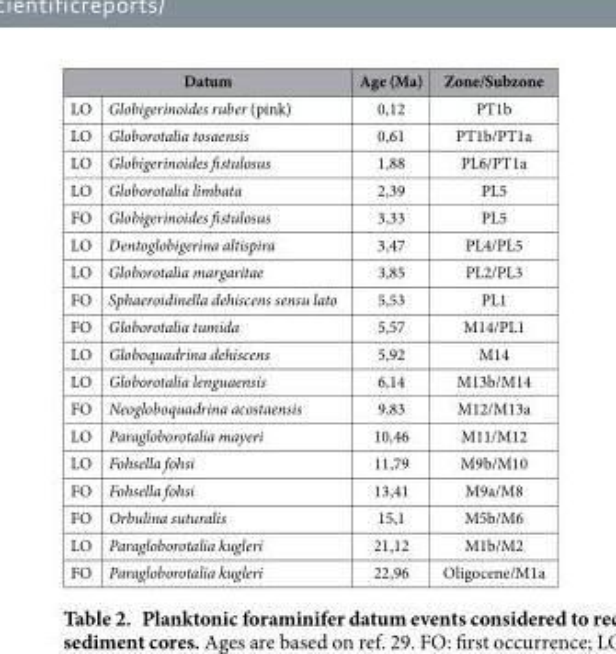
<table><thead><tr><td colspan="2">Datum</td><td rowspan="2">Age (Ma) 0,12</td><td rowspan="2">Zone/Subzone PT1b</td></tr><tr><td>LO</td><td>Globigerinoides ruber (pink)</td></tr></thead><tbody><tr><td>LO</td><td>Globorotalia tosaensis</td><td>0,61</td><td>PT1b/PT1a</td></tr><tr><td>LO</td><td>Globigerinoides fistulosus</td><td>1,88</td><td>PL6/PT1a</td></tr><tr><td>LO</td><td>Globorotalia limbata</td><td>2,39</td><td>PL5</td></tr><tr><td>FO</td><td>Globigerinoides fistulosus</td><td>3,33</td><td>PL5</td></tr><tr><td>LO</td><td>Dentoglobigerina altispira</td><td>3,47</td><td>PL4/PL5</td></tr><tr><td>LO</td><td>Globorotalia margaritae</td><td>3,85</td><td>PL2/PL3</td></tr><tr><td>FO</td><td>Sphaeroidinella dehiscens sensu lato</td><td>5,53</td><td>PL1</td></tr><tr><td>FO</td><td>Globorotalia tumida</td><td>5,57</td><td>M14/PL1</td></tr><tr><td>LO</td><td>Globoquadrina dehiscens</td><td>5,92</td><td>M14</td></tr><tr><td>LO</td><td>Globorotalia lenguaensis</td><td>6,14</td><td>M13b/M14</td></tr><tr><td>FO</td><td>Neogloboquadrina acostaensis</td><td>9,83</td><td>M12/M13a</td></tr><tr><td>LO</td><td>Paragloborotalia mayeri</td><td>10,46</td><td>M11/M12</td></tr><tr><td>LO</td><td>Fohsella fohsi</td><td>11,79</td><td>M9b/M10</td></tr><tr><td>FO</td><td>Fohsella fohsi</td><td>13,41</td><td>M9a/M8</td></tr><tr><td>FO</td><td>Orbulina suturalis</td><td>15,1</td><td>M5b/M6</td></tr><tr><td>LO</td><td>Paragloborotalia kugleri</td><td>21,12</td><td>M1b/M2</td></tr><tr><td>FO</td><td>Paragloborotalia kugleri</td><td>22,96</td><td>Oligocene/M1a</td></tr></tbody></table>